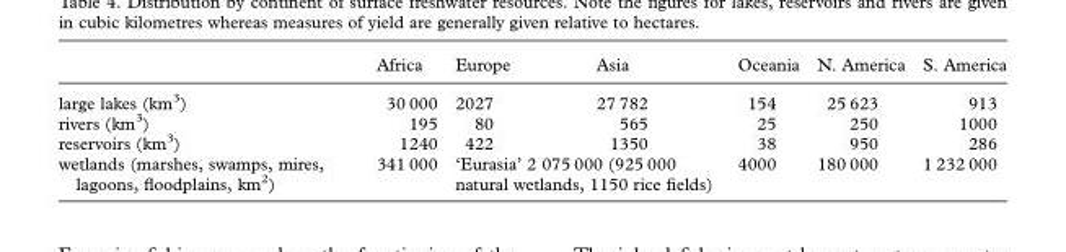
<table><thead><tr><td></td><td>Africa</td><td>Europe</td><td>Asia</td><td>Oceania</td><td>N. America</td><td>S. America</td></tr></thead><tbody><tr><td>large lakes (km<sup>3</sup>)</td><td>30 000</td><td>2027</td><td>27 782</td><td>154</td><td>25 623</td><td>913</td></tr><tr><td>rivers (km<sup>3</sup>)</td><td>195</td><td>80</td><td>565</td><td>25</td><td>250</td><td>1000</td></tr><tr><td>reservoirs (km<sup>3</sup>)</td><td>1240</td><td>422</td><td>1350</td><td>38</td><td>950</td><td>286</td></tr><tr><td>wetlands (marshes, swamps, mires, lagoons, floodplains, km<sup>2</sup>)</td><td>341 000</td><td colspan="2">‘Eurasia’ 2 075 000 (925 000 natural wetlands, 1150 rice fields)</td><td>4000</td><td>180 000</td><td>1 232 000</td></tr></tbody></table>